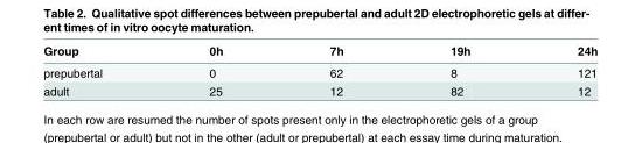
<table><thead><tr><td>Group</td><td>0h</td><td>7h</td><td>19h</td><td>24h</td></tr></thead><tbody><tr><td>prepubertal</td><td>0</td><td>62</td><td>8</td><td>121</td></tr><tr><td>adult</td><td>25</td><td>12</td><td>82</td><td>12</td></tr></tbody></table>